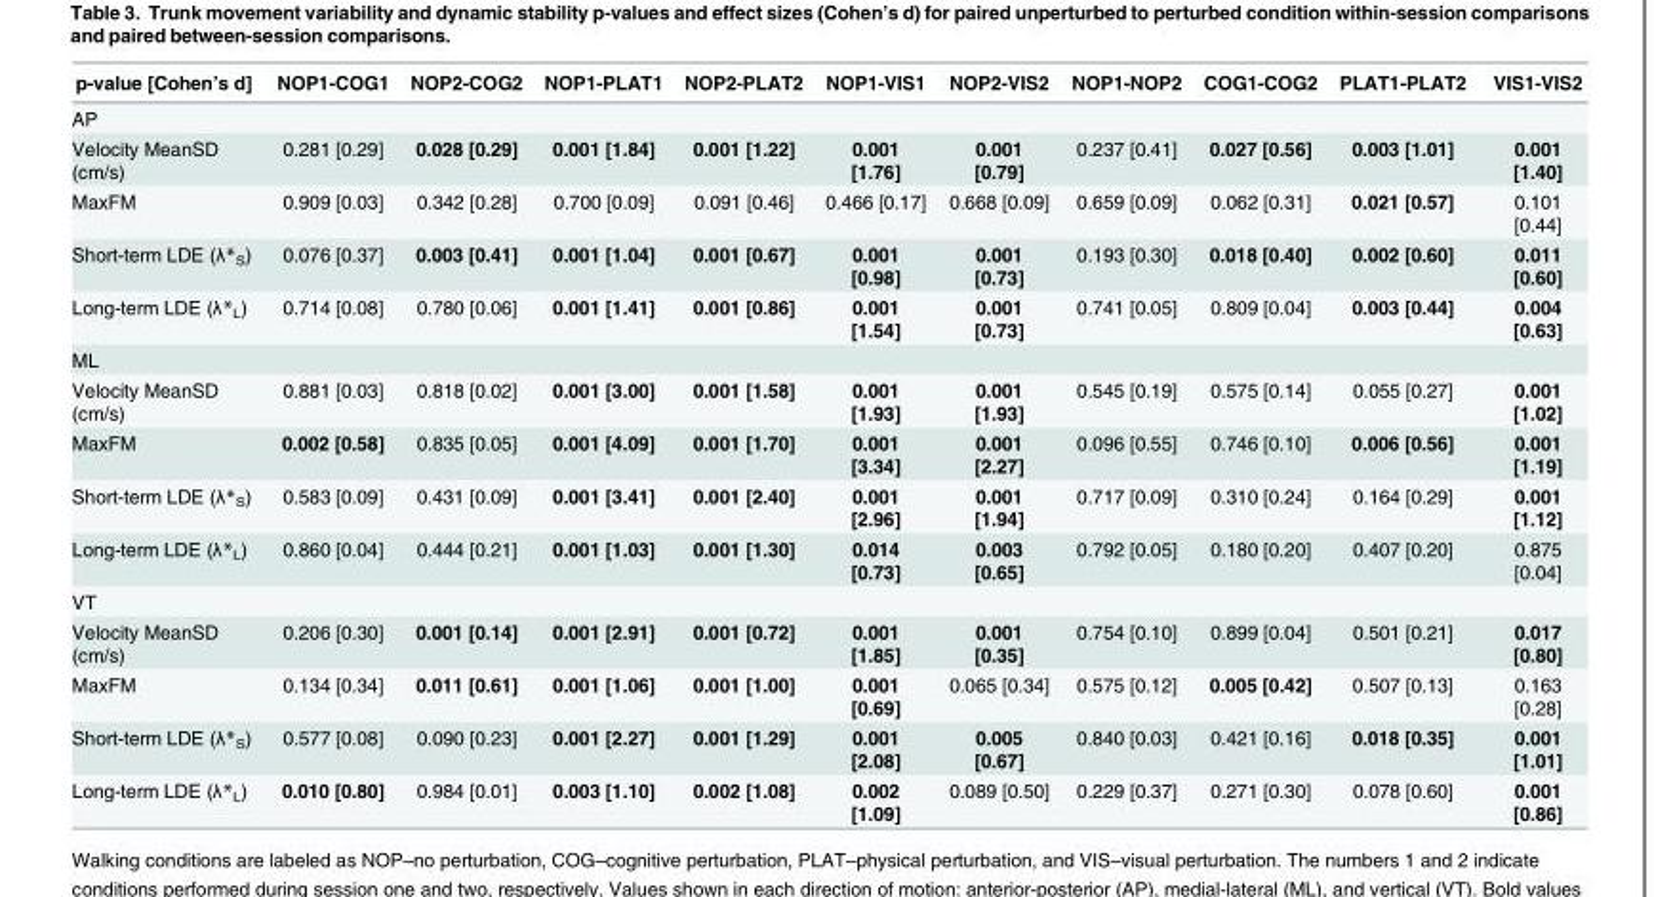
<table><thead><tr><td>p-value [Cohen’s d]</td><td>NOP1-COG1</td><td>NOP2-COG2</td><td>NOP1-PLAT1</td><td>NOP2-PLAT2</td><td>NOP1-VIS1</td><td>NOP2-VIS2</td><td>NOP1-NOP2</td><td>COG1-COG2</td><td>PLAT1-PLAT2</td><td>VIS1-VIS2</td></tr></thead><tbody><tr><td colspan="11">AP</td></tr><tr><td>Velocity MeanSD (cm/s)</td><td>0.281 [0.29]</td><td>0.028 [0.29]</td><td>0.001 [1.84]</td><td>0.001 [1.22]</td><td>0.001 [1.76]</td><td>0.001 [0.79]</td><td>0.237 [0.41]</td><td>0.027 [0.56]</td><td>0.003 [1.01]</td><td>0.001 [1.40]</td></tr><tr><td>MaxFM</td><td>0.909 [0.03]</td><td>0.342 [0.28]</td><td>0.700 [0.09]</td><td>0.091 [0.46]</td><td>0.466 [0.17]</td><td>0.668 [0.09]</td><td>0.659 [0.09]</td><td>0.062 [0.31]</td><td>0.021 [0.57]</td><td>0.101 [0.44]</td></tr><tr><td>Short-term LDE (λ*<sub>S</sub>)</td><td>0.076 [0.37]</td><td>0.003 [0.41]</td><td>0.001 [1.04]</td><td>0.001 [0.67]</td><td>0.001 [0.98]</td><td>0.001 [0.73]</td><td>0.193 [0.30]</td><td>0.018 [0.40]</td><td>0.002 [0.60]</td><td>0.011 [0.60]</td></tr><tr><td>Long-term LDE (λ*<sub>L</sub>)</td><td>0.714 [0.08]</td><td>0.780 [0.06]</td><td>0.001 [1.41]</td><td>0.001 [0.86]</td><td>0.001 [1.54]</td><td>0.001 [0.73]</td><td>0.741 [0.05]</td><td>0.809 [0.04]</td><td>0.003 [0.44]</td><td>0.004 [0.63]</td></tr><tr><td colspan="11">ML</td></tr><tr><td>Velocity MeanSD (cm/s)</td><td>0.881 [0.03]</td><td>0.818 [0.02]</td><td>0.001 [3.00]</td><td>0.001 [1.58]</td><td>0.001 [1.93]</td><td>0.001 [1.93]</td><td>0.545 [0.19]</td><td>0.575 [0.14]</td><td>0.055 [0.27]</td><td>0.001 [1.02]</td></tr><tr><td>MaxFM</td><td>0.002 [0.58]</td><td>0.835 [0.05]</td><td>0.001 [4.09]</td><td>0.001 [1.70]</td><td>0.001 [3.34]</td><td>0.001 [2.27]</td><td>0.096 [0.55]</td><td>0.746 [0.10]</td><td>0.006 [0.56]</td><td>0.001 [1.19]</td></tr><tr><td>Short-term LDE (λ*<sub>S</sub>)</td><td>0.583 [0.09]</td><td>0.431 [0.09]</td><td>0.001 [3.41]</td><td>0.001 [2.40]</td><td>0.001 [2.96]</td><td>0.001 [1.94]</td><td>0.717 [0.09]</td><td>0.310 [0.24]</td><td>0.164 [0.29]</td><td>0.001 [1.12]</td></tr><tr><td>Long-term LDE (λ*<sub>L</sub>)</td><td>0.860 [0.04]</td><td>0.444 [0.21]</td><td>0.001 [1.03]</td><td>0.001 [1.30]</td><td>0.014 [0.73]</td><td>0.003 [0.65]</td><td>0.792 [0.05]</td><td>0.180 [0.20]</td><td>0.407 [0.20]</td><td>0.875 [0.04]</td></tr><tr><td colspan="11">VT</td></tr><tr><td>Velocity MeanSD (cm/s)</td><td>0.206 [0.30]</td><td>0.001 [0.14]</td><td>0.001 [2.91]</td><td>0.001 [0.72]</td><td>0.001 [1.85]</td><td>0.001 [0.35]</td><td>0.754 [0.10]</td><td>0.899 [0.04]</td><td>0.501 [0.21]</td><td>0.017 [0.80]</td></tr><tr><td>MaxFM</td><td>0.134 [0.34]</td><td>0.011 [0.61]</td><td>0.001 [1.06]</td><td>0.001 [1.00]</td><td>0.001 [0.69]</td><td>0.065 [0.34]</td><td>0.575 [0.12]</td><td>0.005 [0.42]</td><td>0.507 [0.13]</td><td>0.163 [0.28]</td></tr><tr><td>Short-term LDE (λ*<sub>S</sub>)</td><td>0.577 [0.08]</td><td>0.090 [0.23]</td><td>0.001 [2.27]</td><td>0.001 [1.29]</td><td>0.001 [2.08]</td><td>0.005 [0.67]</td><td>0.840 [0.03]</td><td>0.421 [0.16]</td><td>0.018 [0.35]</td><td>0.001 [1.01]</td></tr><tr><td>Long-term LDE (λ*<sub>L</sub>)</td><td>0.010 [0.80]</td><td>0.984 [0.01]</td><td>0.003 [1.10]</td><td>0.002 [1.08]</td><td>0.002 [1.09]</td><td>0.089 [0.50]</td><td>0.229 [0.37]</td><td>0.271 [0.30]</td><td>0.078 [0.60]</td><td>0.001 [0.86]</td></tr></tbody></table>